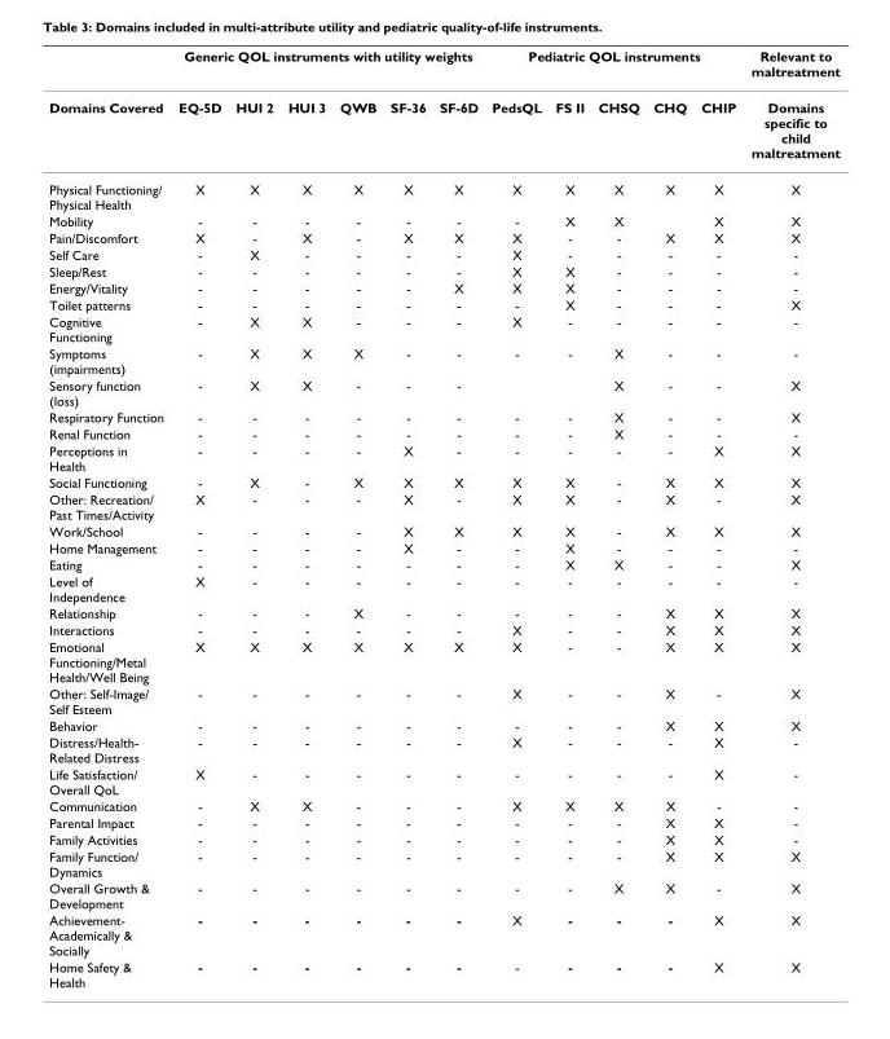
<table><thead><tr><td rowspan="2">Domains Covered</td><td colspan="6">Generic QOL instruments with utility weights</td><td colspan="5">Pediatric QOL instruments</td><td rowspan="2">Relevant to maltreatment Domains specific to child maltreatment</td></tr><tr><td>EQ-5D</td><td>HUI 2</td><td>HUI 3</td><td>QWB</td><td>SF-36</td><td>SF-6D</td><td>PedsQL</td><td>FS II</td><td>CHSQ</td><td>CHQ</td><td>CHIP</td></tr></thead><tbody><tr><td>Physical Functioning/ Physical Health</td><td>X</td><td>X</td><td>X</td><td>X</td><td>X</td><td>X</td><td>X</td><td>X</td><td>X</td><td>X</td><td>X</td><td>X</td></tr><tr><td>Mobility</td><td>-</td><td>-</td><td>-</td><td>-</td><td>-</td><td>-</td><td>-</td><td>X</td><td>X</td><td></td><td>X</td><td>X</td></tr><tr><td>Pain/Discomfort</td><td>X</td><td>-</td><td>X</td><td>-</td><td>X</td><td>X</td><td>X</td><td>-</td><td>-</td><td>X</td><td>X</td><td>X</td></tr><tr><td>Self Care</td><td>-</td><td>X</td><td>-</td><td>-</td><td>-</td><td>-</td><td>X</td><td>-</td><td>-</td><td>-</td><td>-</td><td>-</td></tr><tr><td>Sleep/Rest</td><td>-</td><td>-</td><td>-</td><td>-</td><td>-</td><td>-</td><td>X</td><td>X</td><td>-</td><td>-</td><td>-</td><td>-</td></tr><tr><td>Energy/Vitality</td><td>-</td><td>-</td><td>-</td><td>-</td><td>-</td><td>X</td><td>X</td><td>X</td><td>-</td><td>-</td><td>-</td><td>-</td></tr><tr><td>Toilet patterns</td><td>-</td><td>-</td><td>-</td><td>-</td><td>-</td><td>-</td><td>-</td><td>X</td><td>-</td><td>-</td><td>-</td><td>X</td></tr><tr><td>Cognitive Functioning</td><td>-</td><td>X</td><td>X</td><td>-</td><td>-</td><td>-</td><td>X</td><td>-</td><td>-</td><td>-</td><td>-</td><td>-</td></tr><tr><td>Symptoms (impairments)</td><td>-</td><td>X</td><td>X</td><td>X</td><td>-</td><td>-</td><td>-</td><td>-</td><td>X</td><td>-</td><td>-</td><td>-</td></tr><tr><td>Sensory function (loss)</td><td>-</td><td>X</td><td>X</td><td>-</td><td>-</td><td>-</td><td></td><td></td><td>X</td><td>-</td><td>-</td><td>X</td></tr><tr><td>Respiratory Function</td><td>-</td><td>-</td><td>-</td><td>-</td><td>-</td><td>-</td><td>-</td><td>-</td><td>X</td><td>-</td><td>-</td><td>X</td></tr><tr><td>Renal Function</td><td>-</td><td>-</td><td>-</td><td>-</td><td>-</td><td>-</td><td>-</td><td>-</td><td>X</td><td>-</td><td>-</td><td>-</td></tr><tr><td>Perceptions in Health</td><td>-</td><td>-</td><td>-</td><td>-</td><td>X</td><td>-</td><td>-</td><td>-</td><td>-</td><td>-</td><td>X</td><td>X</td></tr><tr><td>Social Functioning</td><td>-</td><td>X</td><td>-</td><td>X</td><td>X</td><td>X</td><td>X</td><td>X</td><td>-</td><td>X</td><td>X</td><td>X</td></tr><tr><td>Other: Recreation/ Past Times/Activity</td><td>X</td><td>-</td><td>-</td><td>-</td><td>X</td><td>-</td><td>X</td><td>X</td><td>-</td><td>X</td><td>-</td><td>X</td></tr><tr><td>Work/School</td><td>-</td><td>-</td><td>-</td><td>-</td><td>X</td><td>X</td><td>X</td><td>X</td><td>-</td><td>X</td><td>X</td><td>X</td></tr><tr><td>Home Management</td><td>-</td><td>-</td><td>-</td><td>-</td><td>X</td><td>-</td><td>-</td><td>X</td><td>-</td><td>-</td><td>-</td><td>-</td></tr><tr><td>Eating</td><td>-</td><td>-</td><td>-</td><td>-</td><td>-</td><td>-</td><td>-</td><td>X</td><td>X</td><td>-</td><td>-</td><td>X</td></tr><tr><td>Level of Independence</td><td>X</td><td>-</td><td>-</td><td>-</td><td>-</td><td>-</td><td>-</td><td>-</td><td>-</td><td>-</td><td>-</td><td>-</td></tr><tr><td>Relationship</td><td>-</td><td>-</td><td>-</td><td>X</td><td>-</td><td>-</td><td>-</td><td>-</td><td>-</td><td>X</td><td>X</td><td>X</td></tr><tr><td>Interactions</td><td>-</td><td>-</td><td>-</td><td>-</td><td>-</td><td>-</td><td>X</td><td>-</td><td>-</td><td>X</td><td>X</td><td>X</td></tr><tr><td>Emotional Functioning/Metal Health/Well Being</td><td>X</td><td>X</td><td>X</td><td>X</td><td>X</td><td>X</td><td>X</td><td>-</td><td>-</td><td>X</td><td>X</td><td>X</td></tr><tr><td>Other: Self-Image/ Self Esteem</td><td>-</td><td>-</td><td>-</td><td>-</td><td>-</td><td>-</td><td>X</td><td>-</td><td>-</td><td>X</td><td>-</td><td>X</td></tr><tr><td>Behavior</td><td>-</td><td>-</td><td>-</td><td>-</td><td>-</td><td>-</td><td>-</td><td>-</td><td>-</td><td>X</td><td>X</td><td>X</td></tr><tr><td>Distress/Health- Related Distress</td><td>-</td><td>-</td><td>-</td><td>-</td><td>-</td><td>-</td><td>X</td><td>-</td><td>-</td><td>-</td><td>X</td><td>-</td></tr><tr><td>Life Satisfaction/ Overall QoL</td><td>X</td><td>-</td><td>-</td><td>-</td><td>-</td><td>-</td><td>-</td><td>-</td><td>-</td><td>-</td><td>X</td><td>-</td></tr><tr><td>Communication</td><td>-</td><td>X</td><td>X</td><td>-</td><td>-</td><td>-</td><td>X</td><td>X</td><td>X</td><td>X</td><td>-</td><td>-</td></tr><tr><td>Parental Impact</td><td>-</td><td>-</td><td>-</td><td>-</td><td>-</td><td>-</td><td>-</td><td>-</td><td>-</td><td>X</td><td>X</td><td>-</td></tr><tr><td>Family Activities</td><td>-</td><td>-</td><td>-</td><td>-</td><td>-</td><td>-</td><td>-</td><td>-</td><td>-</td><td>X</td><td>X</td><td>-</td></tr><tr><td>Family Function/ Dynamics</td><td>-</td><td>-</td><td>-</td><td>-</td><td>-</td><td>-</td><td>-</td><td>-</td><td>-</td><td>X</td><td>X</td><td>X</td></tr><tr><td>Overall Growth &amp; Development</td><td>-</td><td>-</td><td>-</td><td>-</td><td>-</td><td>-</td><td>-</td><td>-</td><td>X</td><td>X</td><td>-</td><td>X</td></tr><tr><td>Achievement- Academically &amp; Socially</td><td>-</td><td>-</td><td>-</td><td>-</td><td>-</td><td>-</td><td>X</td><td>-</td><td>-</td><td>-</td><td>X</td><td>X</td></tr><tr><td>Home Safety &amp; Health</td><td>-</td><td>-</td><td>-</td><td>-</td><td>-</td><td>-</td><td>-</td><td>-</td><td>-</td><td>-</td><td>X</td><td>X</td></tr></tbody></table>